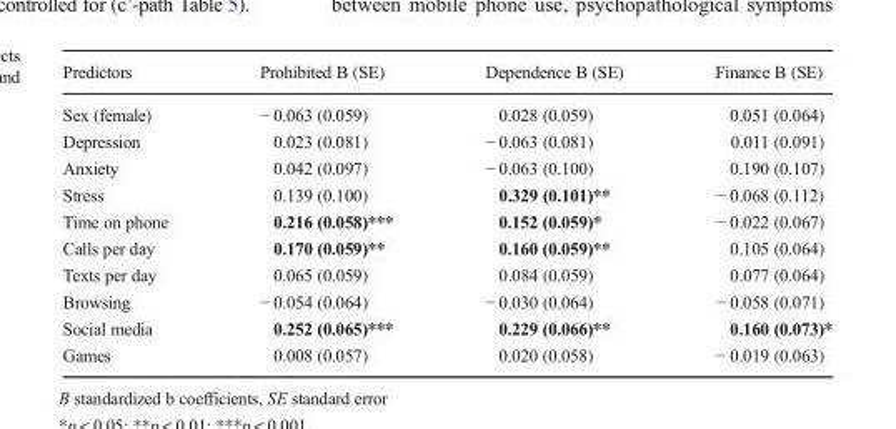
<table><thead><tr><td>Predictors</td><td>Prohibited B (SE)</td><td>Dependence B (SE)</td><td>Finance B (SE)</td></tr></thead><tbody><tr><td>Sex (female)</td><td>− 0.063 (0.059)</td><td>0.028 (0.059)</td><td>0.051 (0.064)</td></tr><tr><td>Depression</td><td>0.023 (0.081)</td><td>− 0.063 (0.081)</td><td>0.011 (0.091)</td></tr><tr><td>Anxiety</td><td>0.042 (0.097)</td><td>− 0.063 (0.100)</td><td>0.190 (0.107)</td></tr><tr><td>Stress</td><td>0.139 (0.100)</td><td>0.329 (0.101)**</td><td>− 0.068 (0.112)</td></tr><tr><td>Time on phone</td><td>0.216 (0.058)***</td><td>0.152 (0.059)*</td><td>− 0.022 (0.067)</td></tr><tr><td>Calls per day</td><td>0.170 (0.059)**</td><td>0.160 (0.059)**</td><td>0.105 (0.064)</td></tr><tr><td>Texts per day</td><td>0.065 (0.059)</td><td>0.084 (0.059)</td><td>0.077 (0.064)</td></tr><tr><td>Browsing</td><td>− 0.054 (0.064)</td><td>− 0.030 (0.064)</td><td>− 0.058 (0.071)</td></tr><tr><td>Social media</td><td>0.252 (0.065)***</td><td>0.229 (0.066)**</td><td>0.160 (0.073)*</td></tr><tr><td>Games</td><td>0.008 (0.057)</td><td>0.020 (0.058)</td><td>− 0.019 (0.063)</td></tr></tbody></table>